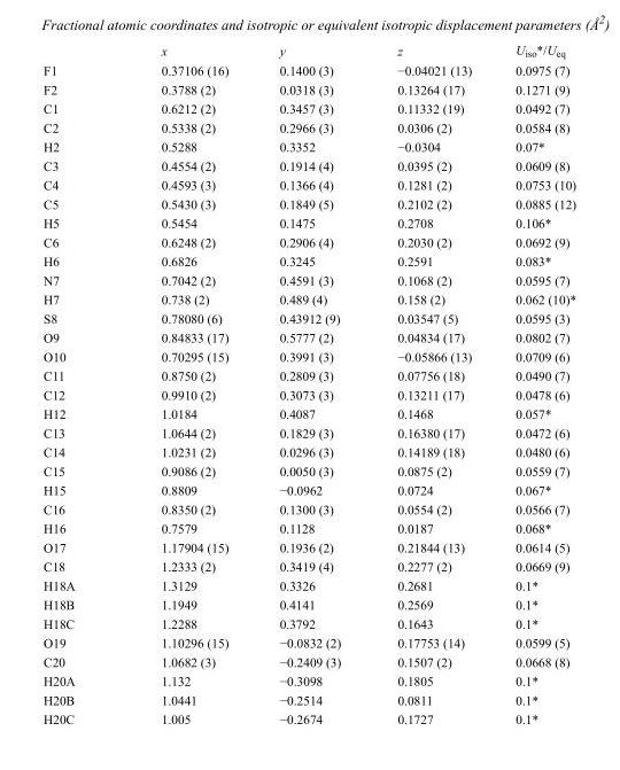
<table><thead><tr><td></td><td>x</td><td>y</td><td>z</td><td>U<sub>iso</sub>*/U<sub>eq</sub></td></tr></thead><tbody><tr><td>F1</td><td>0.37106 (16)</td><td>0.1400 (3)</td><td>−0.04021 (13)</td><td>0.0975 (7)</td></tr><tr><td>F2</td><td>0.3788 (2)</td><td>0.0318 (3)</td><td>0.13264 (17)</td><td>0.1271 (9)</td></tr><tr><td>C1</td><td>0.6212 (2)</td><td>0.3457 (3)</td><td>0.11332 (19)</td><td>0.0492 (7)</td></tr><tr><td>C2</td><td>0.5338 (2)</td><td>0.2966 (3)</td><td>0.0306 (2)</td><td>0.0584 (8)</td></tr><tr><td>H2</td><td>0.5288</td><td>0.3352</td><td>−0.0304</td><td>0.07*</td></tr><tr><td>C3</td><td>0.4554 (2)</td><td>0.1914 (4)</td><td>0.0395 (2)</td><td>0.0609 (8)</td></tr><tr><td>C4</td><td>0.4593 (3)</td><td>0.1366 (4)</td><td>0.1281 (2)</td><td>0.0753 (10)</td></tr><tr><td>C5</td><td>0.5430 (3)</td><td>0.1849 (5)</td><td>0.2102 (2)</td><td>0.0885 (12)</td></tr><tr><td>H5</td><td>0.5454</td><td>0.1475</td><td>0.2708</td><td>0.106*</td></tr><tr><td>C6</td><td>0.6248 (2)</td><td>0.2906 (4)</td><td>0.2030 (2)</td><td>0.0692 (9)</td></tr><tr><td>H6</td><td>0.6826</td><td>0.3245</td><td>0.2591</td><td>0.083*</td></tr><tr><td>N7</td><td>0.7042 (2)</td><td>0.4591 (3)</td><td>0.1068 (2)</td><td>0.0595 (7)</td></tr><tr><td>H7</td><td>0.738 (2)</td><td>0.489 (4)</td><td>0.158 (2)</td><td>0.062 (10)*</td></tr><tr><td>S8</td><td>0.78080 (6)</td><td>0.43912 (9)</td><td>0.03547 (5)</td><td>0.0595 (3)</td></tr><tr><td>O9</td><td>0.84833 (17)</td><td>0.5777 (2)</td><td>0.04834 (17)</td><td>0.0802 (7)</td></tr><tr><td>O10</td><td>0.70295 (15)</td><td>0.3991 (3)</td><td>−0.05866 (13)</td><td>0.0709 (6)</td></tr><tr><td>C11</td><td>0.8750 (2)</td><td>0.2809 (3)</td><td>0.07756 (18)</td><td>0.0490 (7)</td></tr><tr><td>C12</td><td>0.9910 (2)</td><td>0.3073 (3)</td><td>0.13211 (17)</td><td>0.0478 (6)</td></tr><tr><td>H12</td><td>1.0184</td><td>0.4087</td><td>0.1468</td><td>0.057*</td></tr><tr><td>C13</td><td>1.0644 (2)</td><td>0.1829 (3)</td><td>0.16380 (17)</td><td>0.0472 (6)</td></tr><tr><td>C14</td><td>1.0231 (2)</td><td>0.0296 (3)</td><td>0.14189 (18)</td><td>0.0480 (6)</td></tr><tr><td>C15</td><td>0.9086 (2)</td><td>0.0050 (3)</td><td>0.0875 (2)</td><td>0.0559 (7)</td></tr><tr><td>H15</td><td>0.8809</td><td>−0.0962</td><td>0.0724</td><td>0.067*</td></tr><tr><td>C16</td><td>0.8350 (2)</td><td>0.1300 (3)</td><td>0.0554 (2)</td><td>0.0566 (7)</td></tr><tr><td>H16</td><td>0.7579</td><td>0.1128</td><td>0.0187</td><td>0.068*</td></tr><tr><td>O17</td><td>1.17904 (15)</td><td>0.1936 (2)</td><td>0.21844 (13)</td><td>0.0614 (5)</td></tr><tr><td>C18</td><td>1.2333 (2)</td><td>0.3419 (4)</td><td>0.2277 (2)</td><td>0.0669 (9)</td></tr><tr><td>H18A</td><td>1.3129</td><td>0.3326</td><td>0.2681</td><td>0.1*</td></tr><tr><td>H18B</td><td>1.1949</td><td>0.4141</td><td>0.2569</td><td>0.1*</td></tr><tr><td>H18C</td><td>1.2288</td><td>0.3792</td><td>0.1643</td><td>0.1*</td></tr><tr><td>O19</td><td>1.10296 (15)</td><td>−0.0832 (2)</td><td>0.17753 (14)</td><td>0.0599 (5)</td></tr><tr><td>C20</td><td>1.0682 (3)</td><td>−0.2409 (3)</td><td>0.1507 (2)</td><td>0.0668 (8)</td></tr><tr><td>H20A</td><td>1.132</td><td>−0.3098</td><td>0.1805</td><td>0.1*</td></tr><tr><td>H20B</td><td>1.0441</td><td>−0.2514</td><td>0.0811</td><td>0.1*</td></tr><tr><td>H20C</td><td>1.005</td><td>−0.2674</td><td>0.1727</td><td>0.1*</td></tr></tbody></table>